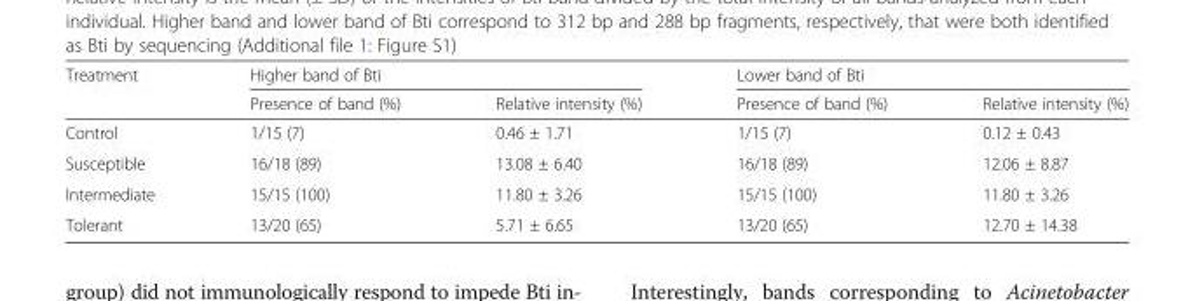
<table><thead><tr><td rowspan="2">Treatment</td><td colspan="2">Higher band of Bti</td><td colspan="2">Lower band of Bti</td></tr><tr><td>Presence of band (%)</td><td>Relative intensity (%)</td><td>Presence of band (%)</td><td>Relative intensity (%)</td></tr></thead><tbody><tr><td>Control</td><td>1/15 (7)</td><td>0.46 ± 1.71</td><td>1/15 (7)</td><td>0.12 ± 0.43</td></tr><tr><td>Susceptible</td><td>16/18 (89)</td><td>13.08 ± 6.40</td><td>16/18 (89)</td><td>12.06 ± 8.87</td></tr><tr><td>Intermediate</td><td>15/15 (100)</td><td>11.80 ± 3.26</td><td>15/15 (100)</td><td>11.80 ± 3.26</td></tr><tr><td>Tolerant</td><td>13/20 (65)</td><td>5.71 ± 6.65</td><td>13/20 (65)</td><td>12.70 ± 14.38</td></tr></tbody></table>